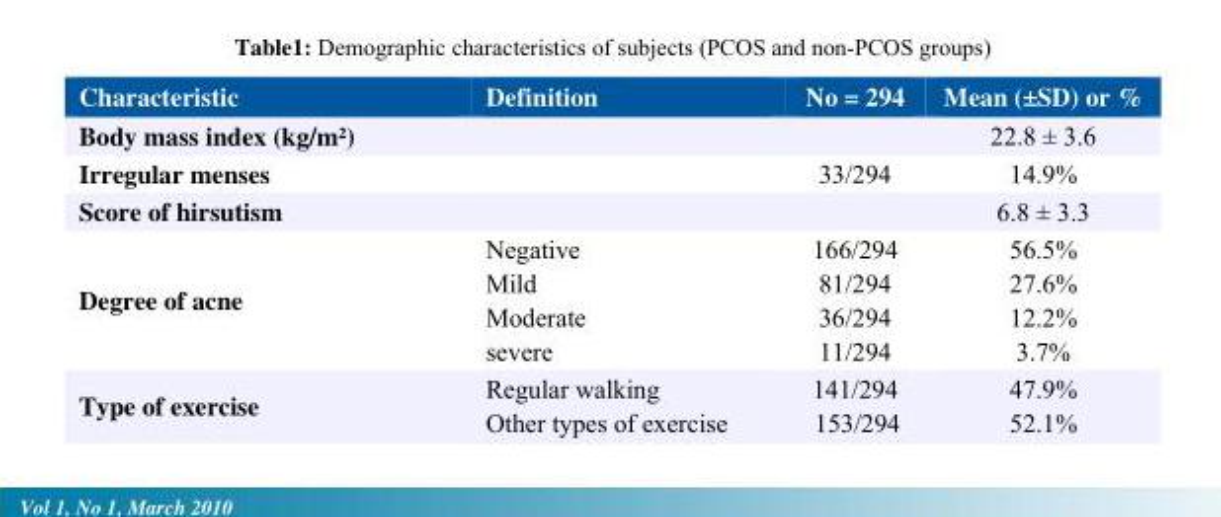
<table><thead><tr><td>Characteristic</td><td>Definition</td><td>No = 294</td><td>Mean (±SD) or %</td></tr></thead><tbody><tr><td>Body mass index (kg/m²)</td><td></td><td></td><td>22.8 ± 3.6</td></tr><tr><td>Irregular menses</td><td></td><td>33/294</td><td>14.9%</td></tr><tr><td>Score of hirsutism</td><td></td><td></td><td>6.8 ± 3.3</td></tr><tr><td rowspan="4">Degree of acne</td><td>Negative</td><td>166/294</td><td>56.5%</td></tr><tr><td>Mild</td><td>81/294</td><td>27.6%</td></tr><tr><td>Moderate</td><td>36/294</td><td>12.2%</td></tr><tr><td>severe</td><td>11/294</td><td>3.7%</td></tr><tr><td rowspan="2">Type of exercise</td><td>Regular walking</td><td>141/294</td><td>47.9%</td></tr><tr><td>Other types of exercise</td><td>153/294</td><td>52.1%</td></tr></tbody></table>